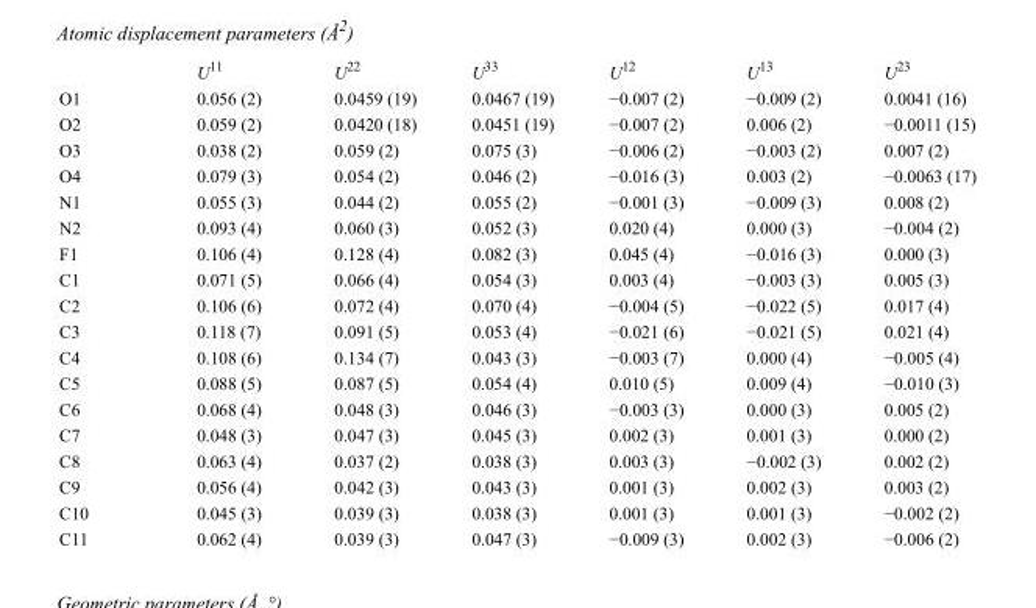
<table><thead><tr><td></td><td>U<sup>11</sup></td><td>U<sup>22</sup></td><td>U<sup>33</sup></td><td>U<sup>12</sup></td><td>U<sup>13</sup></td><td>U<sup>23</sup></td></tr></thead><tbody><tr><td>O1</td><td>0.056 (2)</td><td>0.0459 (19)</td><td>0.0467 (19)</td><td>−0.007 (2)</td><td>−0.009 (2)</td><td>0.0041 (16)</td></tr><tr><td>O2</td><td>0.059 (2)</td><td>0.0420 (18)</td><td>0.0451 (19)</td><td>−0.007 (2)</td><td>0.006 (2)</td><td>−0.0011 (15)</td></tr><tr><td>O3</td><td>0.038 (2)</td><td>0.059 (2)</td><td>0.075 (3)</td><td>−0.006 (2)</td><td>−0.003 (2)</td><td>0.007 (2)</td></tr><tr><td>O4</td><td>0.079 (3)</td><td>0.054 (2)</td><td>0.046 (2)</td><td>−0.016 (3)</td><td>0.003 (2)</td><td>−0.0063 (17)</td></tr><tr><td>N1</td><td>0.055 (3)</td><td>0.044 (2)</td><td>0.055 (2)</td><td>−0.001 (3)</td><td>−0.009 (3)</td><td>0.008 (2)</td></tr><tr><td>N2</td><td>0.093 (4)</td><td>0.060 (3)</td><td>0.052 (3)</td><td>0.020 (4)</td><td>0.000 (3)</td><td>−0.004 (2)</td></tr><tr><td>F1</td><td>0.106 (4)</td><td>0.128 (4)</td><td>0.082 (3)</td><td>0.045 (4)</td><td>−0.016 (3)</td><td>0.000 (3)</td></tr><tr><td>C1</td><td>0.071 (5)</td><td>0.066 (4)</td><td>0.054 (3)</td><td>0.003 (4)</td><td>−0.003 (3)</td><td>0.005 (3)</td></tr><tr><td>C2</td><td>0.106 (6)</td><td>0.072 (4)</td><td>0.070 (4)</td><td>−0.004 (5)</td><td>−0.022 (5)</td><td>0.017 (4)</td></tr><tr><td>C3</td><td>0.118 (7)</td><td>0.091 (5)</td><td>0.053 (4)</td><td>−0.021 (6)</td><td>−0.021 (5)</td><td>0.021 (4)</td></tr><tr><td>C4</td><td>0.108 (6)</td><td>0.134 (7)</td><td>0.043 (3)</td><td>−0.003 (7)</td><td>0.000 (4)</td><td>−0.005 (4)</td></tr><tr><td>C5</td><td>0.088 (5)</td><td>0.087 (5)</td><td>0.054 (4)</td><td>0.010 (5)</td><td>0.009 (4)</td><td>−0.010 (3)</td></tr><tr><td>C6</td><td>0.068 (4)</td><td>0.048 (3)</td><td>0.046 (3)</td><td>−0.003 (3)</td><td>0.000 (3)</td><td>0.005 (2)</td></tr><tr><td>C7</td><td>0.048 (3)</td><td>0.047 (3)</td><td>0.045 (3)</td><td>0.002 (3)</td><td>0.001 (3)</td><td>0.000 (2)</td></tr><tr><td>C8</td><td>0.063 (4)</td><td>0.037 (2)</td><td>0.038 (3)</td><td>0.003 (3)</td><td>−0.002 (3)</td><td>0.002 (2)</td></tr><tr><td>C9</td><td>0.056 (4)</td><td>0.042 (3)</td><td>0.043 (3)</td><td>0.001 (3)</td><td>0.002 (3)</td><td>0.003 (2)</td></tr><tr><td>C10</td><td>0.045 (3)</td><td>0.039 (3)</td><td>0.038 (3)</td><td>0.001 (3)</td><td>0.001 (3)</td><td>−0.002 (2)</td></tr><tr><td>C11</td><td>0.062 (4)</td><td>0.039 (3)</td><td>0.047 (3)</td><td>−0.009 (3)</td><td>0.002 (3)</td><td>−0.006 (2)</td></tr></tbody></table>